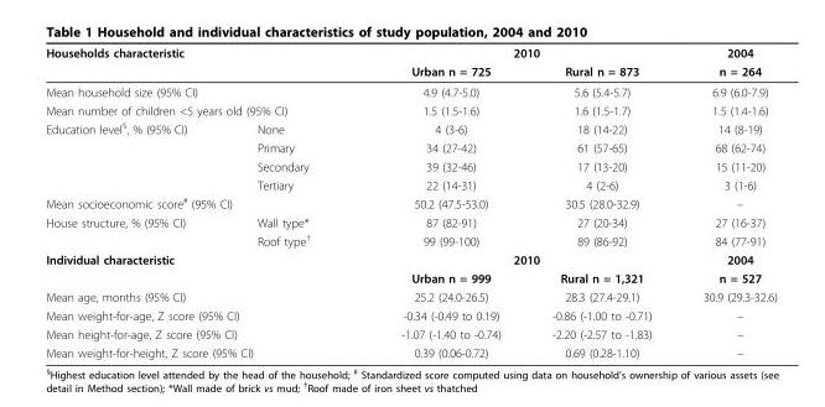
<table><thead><tr><td colspan="2">Households characteristic</td><td colspan="2">2010</td><td rowspan="2">2004 n = 264</td></tr><tr><td></td><td></td><td>Urban n = 725</td><td>Rural n = 873</td></tr></thead><tbody><tr><td colspan="2">Mean household size (95% CI)</td><td>4.9 (4.7-5.0)</td><td>5.6 (5.4-5.7)</td><td>6.9 (6.0-7.9)</td></tr><tr><td colspan="2">Mean number of children &lt;5 years old (95% CI)</td><td>1.5 (1.5-1.6)</td><td>1.6 (1.5-1.7)</td><td>1.5 (1.4-1.6)</td></tr><tr><td rowspan="4">Education level<sup>§</sup>, % (95% CI)</td><td>None</td><td>4 (3-6)</td><td>18 (14-22)</td><td>14 (8-19)</td></tr><tr><td>Primary</td><td>34 (27-42)</td><td>61 (57-65)</td><td>68 (62-74)</td></tr><tr><td>Secondary</td><td>39 (32-46)</td><td>17 (13-20)</td><td>15 (11-20)</td></tr><tr><td>Tertiary</td><td>22 (14-31)</td><td>4 (2-6)</td><td>3 (1-6)</td></tr><tr><td colspan="2">Mean socioeconomic score<sup>#</sup> (95% CI)</td><td>50.2 (47.5-53.0)</td><td>30.5 (28.0-32.9)</td><td>–</td></tr><tr><td rowspan="2">House structure, % (95% CI)</td><td>Wall type*</td><td>87 (82-91)</td><td>27 (20-34)</td><td>27 (16-37)</td></tr><tr><td>Roof type<sup>†</sup></td><td>99 (99-100)</td><td>89 (86-92)</td><td>84 (77-91)</td></tr><tr><td colspan="2">Individual characteristic</td><td colspan="2">2010</td><td>2004</td></tr><tr><td></td><td></td><td>Urban n = 999</td><td>Rural n = 1,321</td><td>n = 527</td></tr><tr><td colspan="2">Mean age, months (95% CI)</td><td>25.2 (24.0-26.5)</td><td>28.3 (27.4-29.1)</td><td>30.9 (29.3-32.6)</td></tr><tr><td colspan="2">Mean weight-for-age, Z score (95% CI)</td><td>-0.34 (-0.49 to 0.19)</td><td>-0.86 (-1.00 to -0.71)</td><td>–</td></tr><tr><td colspan="2">Mean height-for-age, Z score (95% CI)</td><td>-1.07 (-1.40 to -0.74)</td><td>-2.20 (-2.57 to -1.83)</td><td>–</td></tr><tr><td colspan="2">Mean weight-for-height, Z score (95% CI)</td><td>0.39 (0.06-0.72)</td><td>0.69 (0.28-1.10)</td><td>–</td></tr></tbody></table>